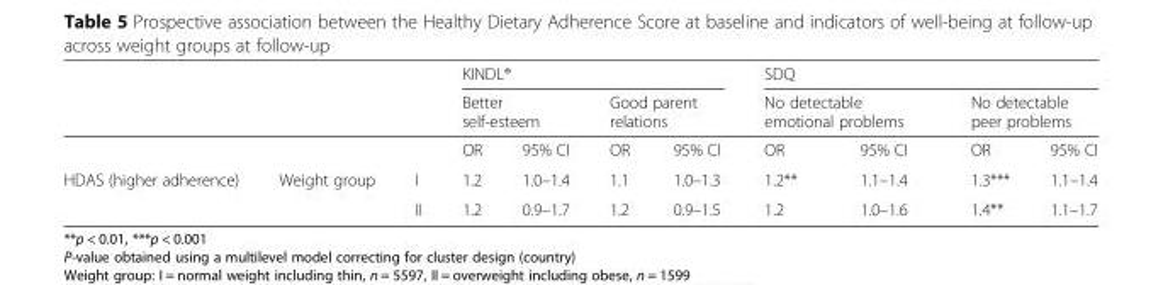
<table><thead><tr><td rowspan="2"></td><td rowspan="2"></td><td rowspan="2"></td><td colspan="4">KINDL®</td><td colspan="4">SDQ</td></tr><tr><td colspan="2">Better self-esteem</td><td colspan="2">Good parent relations</td><td colspan="2">No detectable emotional problems</td><td colspan="2">No detectable peer problems</td></tr><tr><td colspan="3"></td><td>OR</td><td>95% CI</td><td>OR</td><td>95% CI</td><td>OR</td><td>95% CI</td><td>OR</td><td>95% CI</td></tr></thead><tbody><tr><td rowspan="2">HDAS (higher adherence)</td><td rowspan="2">Weight group</td><td>I</td><td>1.2</td><td>1.0–1.4</td><td>1.1</td><td>1.0–1.3</td><td>1.2**</td><td>1.1–1.4</td><td>1.3***</td><td>1.1–1.4</td></tr><tr><td>II</td><td>1.2</td><td>0.9–1.7</td><td>1.2</td><td>0.9–1.5</td><td>1.2</td><td>1.0–1.6</td><td>1.4**</td><td>1.1–1.7</td></tr></tbody></table>